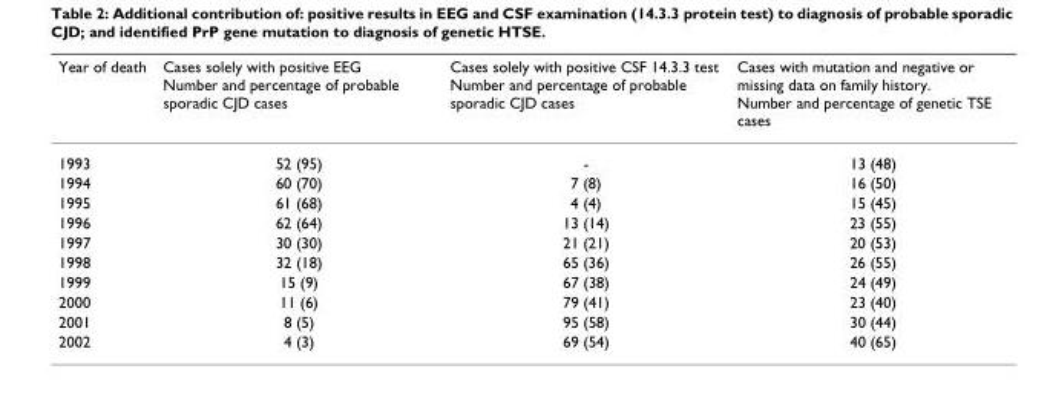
<table><thead><tr><td>Year of death</td><td>Cases solely with positive EEG Number and percentage of probable sporadic CJD cases</td><td>Cases solely with positive CSF 14.3.3 test Number and percentage of probable sporadic CJD cases</td><td>Cases with mutation and negative or missing data on family history. Number and percentage of genetic TSE cases</td></tr></thead><tbody><tr><td>1993</td><td>52 (95)</td><td>-</td><td>13 (48)</td></tr><tr><td>1994</td><td>60 (70)</td><td>7 (8)</td><td>16 (50)</td></tr><tr><td>1995</td><td>61 (68)</td><td>4 (4)</td><td>15 (45)</td></tr><tr><td>1996</td><td>62 (64)</td><td>13 (14)</td><td>23 (55)</td></tr><tr><td>1997</td><td>30 (30)</td><td>21 (21)</td><td>20 (53)</td></tr><tr><td>1998</td><td>32 (18)</td><td>65 (36)</td><td>26 (55)</td></tr><tr><td>1999</td><td>15 (9)</td><td>67 (38)</td><td>24 (49)</td></tr><tr><td>2000</td><td>11 (6)</td><td>79 (41)</td><td>23 (40)</td></tr><tr><td>2001</td><td>8 (5)</td><td>95 (58)</td><td>30 (44)</td></tr><tr><td>2002</td><td>4 (3)</td><td>69 (54)</td><td>40 (65)</td></tr></tbody></table>